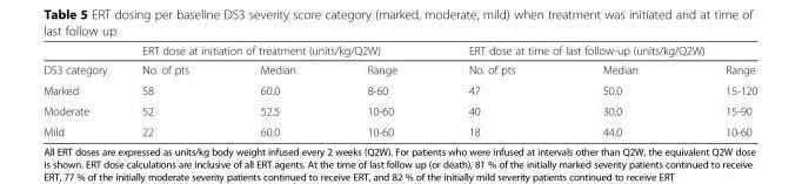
<table><thead><tr><td rowspan="2">DS3 category</td><td colspan="3">ERT dose at initiation of treatment (units/kg/Q2W)</td><td colspan="3">ERT dose at time of last follow-up (units/kg/Q2W)</td></tr><tr><td>No. of pts</td><td>Median</td><td>Range</td><td>No. of pts</td><td>Median</td><td>Range</td></tr></thead><tbody><tr><td>Marked</td><td>58</td><td>60.0</td><td>8-60</td><td>47</td><td>50.0</td><td>15-120</td></tr><tr><td>Moderate</td><td>52</td><td>52.5</td><td>10-60</td><td>40</td><td>30.0</td><td>15-90</td></tr><tr><td>Mild</td><td>22</td><td>60.0</td><td>10-60</td><td>18</td><td>44.0</td><td>10-60</td></tr></tbody></table>